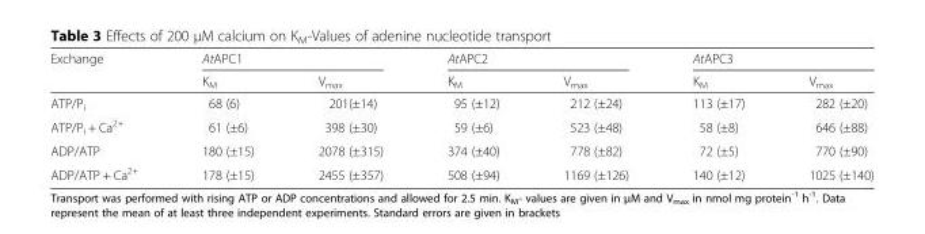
<table><thead><tr><td rowspan="2">Exchange</td><td colspan="2">AtAPC1</td><td colspan="2">AtAPC2</td><td colspan="2">AtAPC3</td></tr><tr><td>K<sub>M</sub></td><td>V<sub>max</sub></td><td>K<sub>M</sub></td><td>V<sub>max</sub></td><td>K<sub>M</sub></td><td>V<sub>max</sub></td></tr></thead><tbody><tr><td>ATP/P<sub>i</sub></td><td>68 (6)</td><td>201(±14)</td><td>95 (±12)</td><td>212 (±24)</td><td>113 (±17)</td><td>282 (±20)</td></tr><tr><td>ATP/P<sub>i</sub> + Ca<sup>2+</sup></td><td>61 (±6)</td><td>398 (±30)</td><td>59 (±6)</td><td>523 (±48)</td><td>58 (±8)</td><td>646 (±88)</td></tr><tr><td>ADP/ATP</td><td>180 (±15)</td><td>2078 (±315)</td><td>374 (±40)</td><td>778 (±82)</td><td>72 (±5)</td><td>770 (±90)</td></tr><tr><td>ADP/ATP + Ca<sup>2+</sup></td><td>178 (±15)</td><td>2455 (±357)</td><td>508 (±94)</td><td>1169 (±126)</td><td>140 (±12)</td><td>1025 (±140)</td></tr></tbody></table>